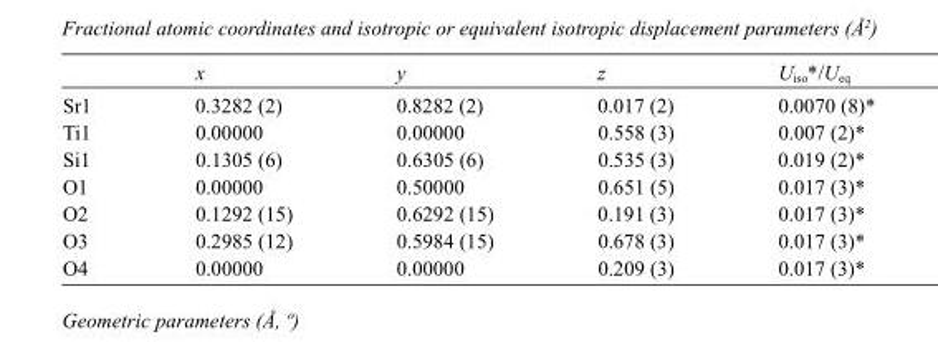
<table><thead><tr><td></td><td>x</td><td>y</td><td>z</td><td>U<sub>iso</sub>*/U<sub>eq</sub></td></tr></thead><tbody><tr><td>Sr1</td><td>0.3282 (2)</td><td>0.8282 (2)</td><td>0.017 (2)</td><td>0.0070 (8)*</td></tr><tr><td>Ti1</td><td>0.00000</td><td>0.00000</td><td>0.558 (3)</td><td>0.007 (2)*</td></tr><tr><td>Si1</td><td>0.1305 (6)</td><td>0.6305 (6)</td><td>0.535 (3)</td><td>0.019 (2)*</td></tr><tr><td>O1</td><td>0.00000</td><td>0.50000</td><td>0.651 (5)</td><td>0.017 (3)*</td></tr><tr><td>O2</td><td>0.1292 (15)</td><td>0.6292 (15)</td><td>0.191 (3)</td><td>0.017 (3)*</td></tr><tr><td>O3</td><td>0.2985 (12)</td><td>0.5984 (15)</td><td>0.678 (3)</td><td>0.017 (3)*</td></tr><tr><td>O4</td><td>0.00000</td><td>0.00000</td><td>0.209 (3)</td><td>0.017 (3)*</td></tr></tbody></table>